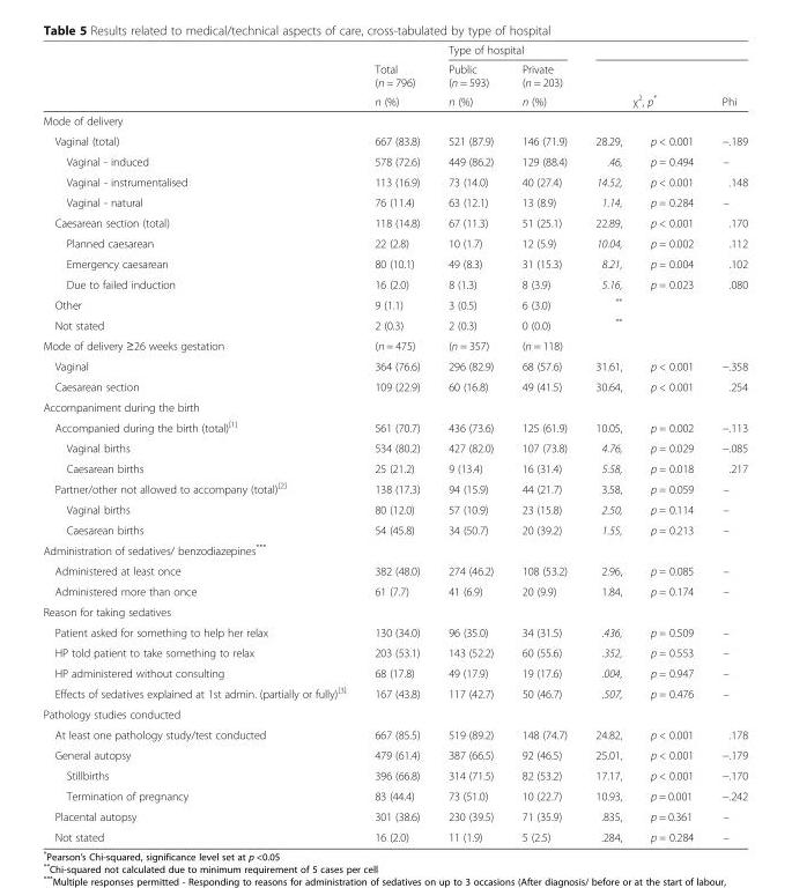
<table><thead><tr><td rowspan="3"></td><td rowspan="3">Total (n = 796) n (%)</td><td colspan="2">Type of hospital</td><td rowspan="2"></td><td rowspan="2"></td><td rowspan="3">Phi</td></tr><tr><td rowspan="2">Public (n = 593) n (%)</td><td rowspan="2">Private (n = 203) n (%)</td></tr><tr><td colspan="2">χ<sup>2</sup>, p*</td></tr></thead><tbody><tr><td colspan="7">Mode of delivery</td></tr><tr><td>Vaginal (total)</td><td>667 (83.8)</td><td>521 (87.9)</td><td>146 (71.9)</td><td>28.29,</td><td>p &lt; 0.001</td><td>−.189</td></tr><tr><td>Vaginal - induced</td><td>578 (72.6)</td><td>449 (86.2)</td><td>129 (88.4)</td><td>.46,</td><td>p = 0.494</td><td>–</td></tr><tr><td>Vaginal - instrumentalised</td><td>113 (16.9)</td><td>73 (14.0)</td><td>40 (27.4)</td><td>14.52,</td><td>p &lt; 0.001</td><td>.148</td></tr><tr><td>Vaginal - natural</td><td>76 (11.4)</td><td>63 (12.1)</td><td>13 (8.9)</td><td>1.14,</td><td>p = 0.284</td><td>–</td></tr><tr><td>Caesarean section (total)</td><td>118 (14.8)</td><td>67 (11.3)</td><td>51 (25.1)</td><td>22.89,</td><td>p &lt; 0.001</td><td>.170</td></tr><tr><td>Planned caesarean</td><td>22 (2.8)</td><td>10 (1.7)</td><td>12 (5.9)</td><td>10.04,</td><td>p = 0.002</td><td>.112</td></tr><tr><td>Emergency caesarean</td><td>80 (10.1)</td><td>49 (8.3)</td><td>31 (15.3)</td><td>8.21,</td><td>p = 0.004</td><td>.102</td></tr><tr><td>Due to failed induction</td><td>16 (2.0)</td><td>8 (1.3)</td><td>8 (3.9)</td><td>5.16,</td><td>p = 0.023</td><td>.080</td></tr><tr><td>Other</td><td>9 (1.1)</td><td>3 (0.5)</td><td>6 (3.0)</td><td>**</td><td></td><td></td></tr><tr><td>Not stated</td><td>2 (0.3)</td><td>2 (0.3)</td><td>0 (0.0)</td><td>**</td><td></td><td></td></tr><tr><td>Mode of delivery ≥26 weeks gestation</td><td>(n = 475)</td><td>(n = 357)</td><td>(n = 118)</td><td></td><td></td><td></td></tr><tr><td>Vaginal</td><td>364 (76.6)</td><td>296 (82.9)</td><td>68 (57.6)</td><td>31.61,</td><td>p &lt; 0.001</td><td>−.358</td></tr><tr><td>Caesarean section</td><td>109 (22.9)</td><td>60 (16.8)</td><td>49 (41.5)</td><td>30.64,</td><td>p &lt; 0.001</td><td>.254</td></tr><tr><td colspan="7">Accompaniment during the birth</td></tr><tr><td>Accompanied during the birth (total)<sup>[1]</sup></td><td>561 (70.7)</td><td>436 (73.6)</td><td>125 (61.9)</td><td>10.05,</td><td>p = 0.002</td><td>−.113</td></tr><tr><td>Vaginal births</td><td>534 (80.2)</td><td>427 (82.0)</td><td>107 (73.8)</td><td>4.76,</td><td>p = 0.029</td><td>−.085</td></tr><tr><td>Caesarean births</td><td>25 (21.2)</td><td>9 (13.4)</td><td>16 (31.4)</td><td>5.58,</td><td>p = 0.018</td><td>.217</td></tr><tr><td>Partner/other not allowed to accompany (total)<sup>[2]</sup></td><td>138 (17.3)</td><td>94 (15.9)</td><td>44 (21.7)</td><td>3.58,</td><td>p = 0.059</td><td>–</td></tr><tr><td>Vaginal births</td><td>80 (12.0)</td><td>57 (10.9)</td><td>23 (15.8)</td><td>2.50,</td><td>p = 0.114</td><td>–</td></tr><tr><td>Caesarean births</td><td>54 (45.8)</td><td>34 (50.7)</td><td>20 (39.2)</td><td>1.55,</td><td>p = 0.213</td><td>–</td></tr><tr><td colspan="7">Administration of sedatives/ benzodiazepines***</td></tr><tr><td>Administered at least once</td><td>382 (48.0)</td><td>274 (46.2)</td><td>108 (53.2)</td><td>2.96,</td><td>p = 0.085</td><td>–</td></tr><tr><td>Administered more than once</td><td>61 (7.7)</td><td>41 (6.9)</td><td>20 (9.9)</td><td>1.84,</td><td>p = 0.174</td><td>–</td></tr><tr><td colspan="7">Reason for taking sedatives</td></tr><tr><td>Patient asked for something to help her relax</td><td>130 (34.0)</td><td>96 (35.0)</td><td>34 (31.5)</td><td>.436,</td><td>p = 0.509</td><td>–</td></tr><tr><td>HP told patient to take something to relax</td><td>203 (53.1)</td><td>143 (52.2)</td><td>60 (55.6)</td><td>.352,</td><td>p = 0.553</td><td>–</td></tr><tr><td>HP administered without consulting</td><td>68 (17.8)</td><td>49 (17.9)</td><td>19 (17.6)</td><td>.004,</td><td>p = 0.947</td><td>–</td></tr><tr><td>Effects of sedatives explained at 1st admin. (partially or fully)<sup>[3]</sup></td><td>167 (43.8)</td><td>117 (42.7)</td><td>50 (46.7)</td><td>.507,</td><td>p = 0.476</td><td>–</td></tr><tr><td colspan="7">Pathology studies conducted</td></tr><tr><td>At least one pathology study/test conducted</td><td>667 (85.5)</td><td>519 (89.2)</td><td>148 (74.7)</td><td>24.82,</td><td>p &lt; 0.001</td><td>.178</td></tr><tr><td>General autopsy</td><td>479 (61.4)</td><td>387 (66.5)</td><td>92 (46.5)</td><td>25.01,</td><td>p &lt; 0.001</td><td>−.179</td></tr><tr><td>Stillbirths</td><td>396 (66.8)</td><td>314 (71.5)</td><td>82 (53.2)</td><td>17.17,</td><td>p &lt; 0.001</td><td>−.170</td></tr><tr><td>Termination of pregnancy</td><td>83 (44.4)</td><td>73 (51.0)</td><td>10 (22.7)</td><td>10.93,</td><td>p = 0.001</td><td>−.242</td></tr><tr><td>Placental autopsy</td><td>301 (38.6)</td><td>230 (39.5)</td><td>71 (35.9)</td><td>.835,</td><td>p = 0.361</td><td>–</td></tr><tr><td>Not stated</td><td>16 (2.0)</td><td>11 (1.9)</td><td>5 (2.5)</td><td>.284,</td><td>p = 0.284</td><td>–</td></tr></tbody></table>